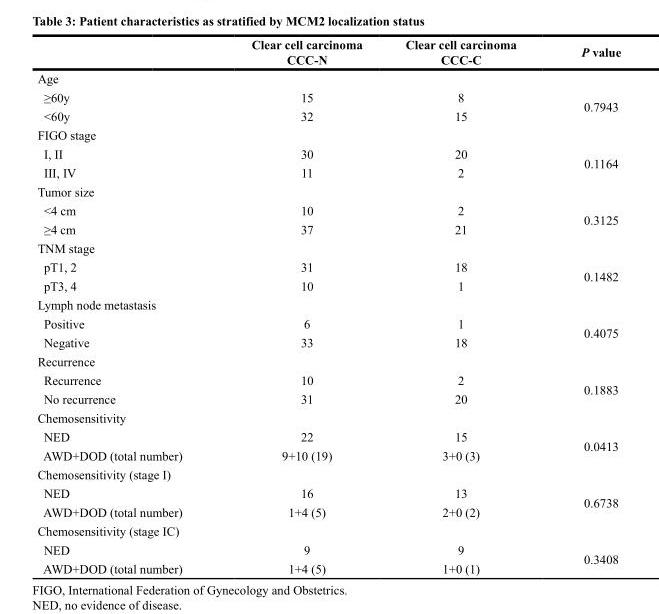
<table><thead><tr><td></td><td>Clear cell carcinoma CCC-N</td><td>Clear cell carcinoma CCC-C</td><td>P value</td></tr></thead><tbody><tr><td colspan="4">Age</td></tr><tr><td>≥60y</td><td>15</td><td>8</td><td rowspan="2">0.7943</td></tr><tr><td>&lt;60y</td><td>32</td><td>15</td></tr><tr><td colspan="4">FIGO stage</td></tr><tr><td>I, II</td><td>30</td><td>20</td><td rowspan="2">0.1164</td></tr><tr><td>III, IV</td><td>11</td><td>2</td></tr><tr><td colspan="4">Tumor size</td></tr><tr><td>&lt;4 cm</td><td>10</td><td>2</td><td rowspan="2">0.3125</td></tr><tr><td>≥4 cm</td><td>37</td><td>21</td></tr><tr><td colspan="4">TNM stage</td></tr><tr><td>pT1, 2</td><td>31</td><td>18</td><td rowspan="2">0.1482</td></tr><tr><td>pT3, 4</td><td>10</td><td>1</td></tr><tr><td colspan="4">Lymph node metastasis</td></tr><tr><td>Positive</td><td>6</td><td>1</td><td rowspan="2">0.4075</td></tr><tr><td>Negative</td><td>33</td><td>18</td></tr><tr><td colspan="4">Recurrence</td></tr><tr><td>Recurrence</td><td>10</td><td>2</td><td rowspan="2">0.1883</td></tr><tr><td>No recurrence</td><td>31</td><td>20</td></tr><tr><td colspan="4">Chemosensitivity</td></tr><tr><td>NED</td><td>22</td><td>15</td><td rowspan="2">0.0413</td></tr><tr><td>AWD+DOD (total number)</td><td>9+10 (19)</td><td>3+0 (3)</td></tr><tr><td colspan="4">Chemosensitivity (stage I)</td></tr><tr><td>NED</td><td>16</td><td>13</td><td rowspan="2">0.6738</td></tr><tr><td>AWD+DOD (total number)</td><td>1+4 (5)</td><td>2+0 (2)</td></tr><tr><td colspan="4">Chemosensitivity (stage IC)</td></tr><tr><td>NED</td><td>9</td><td>9</td><td rowspan="2">0.3408</td></tr><tr><td>AWD+DOD (total number)</td><td>1+4 (5)</td><td>1+0 (1)</td></tr></tbody></table>